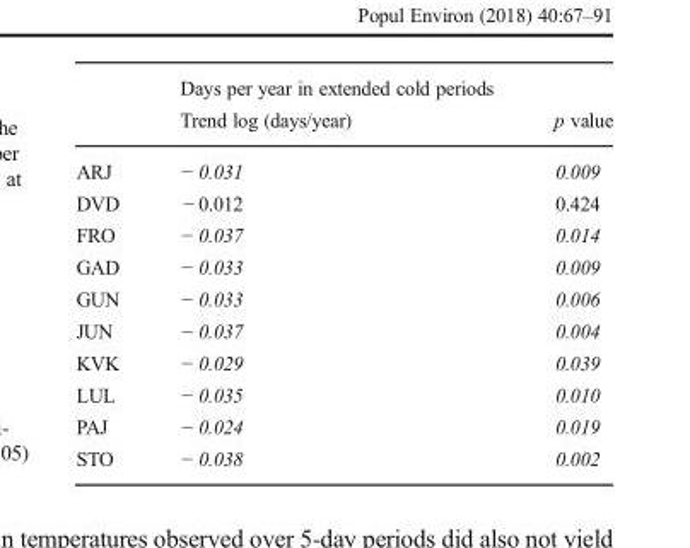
<table><thead><tr><td rowspan="2"></td><td rowspan="2">Days per year in extended cold periods Trend log (days/year)</td><td rowspan="2">p value</td></tr><tr></tr></thead><tbody><tr><td>ARJ</td><td>− 0.031</td><td>0.009</td></tr><tr><td>DVD</td><td>− 0.012</td><td>0.424</td></tr><tr><td>FRO</td><td>− 0.037</td><td>0.014</td></tr><tr><td>GAD</td><td>− 0.033</td><td>0.009</td></tr><tr><td>GUN</td><td>− 0.033</td><td>0.006</td></tr><tr><td>JUN</td><td>− 0.037</td><td>0.004</td></tr><tr><td>KVK</td><td>− 0.029</td><td>0.039</td></tr><tr><td>LUL</td><td>− 0.035</td><td>0.010</td></tr><tr><td>PAJ</td><td>− 0.024</td><td>0.019</td></tr><tr><td>STO</td><td>− 0.038</td><td>0.002</td></tr></tbody></table>